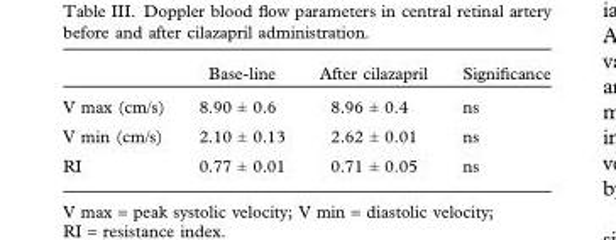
<table><thead><tr><td></td><td>Base-line</td><td>After cilazapril</td><td>Significance</td></tr></thead><tbody><tr><td>V max (cm/s)</td><td>8.90 ± 0.6</td><td>8.96 ± 0.4</td><td>ns</td></tr><tr><td>V min (cm/s)</td><td>2.10 ± 0.13</td><td>2.62 ± 0.01</td><td>ns</td></tr><tr><td>RI</td><td>0.77 ± 0.01</td><td>0.71 ± 0.05</td><td>ns</td></tr></tbody></table>